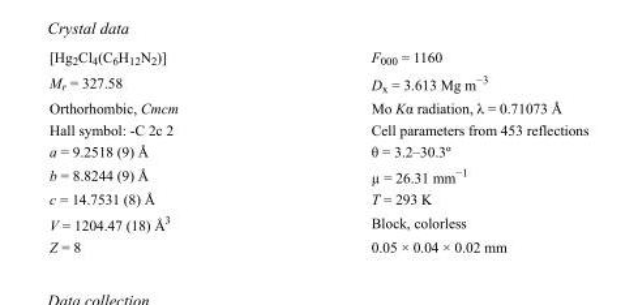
<table><tbody><tr><td>[Hg<sub>2</sub>Cl<sub>4</sub>(C<sub>6</sub>H<sub>12</sub>N<sub>2</sub>)]</td><td>F000 = 1160</td></tr><tr><td>M<sub>r</sub> = 327.58</td><td>D<sub>x</sub> = 3.613 Mg m<sup>−3</sup></td></tr><tr><td>Orthorhombic, Cmcm</td><td>Mo Kα radiation, λ = 0.71073 Å</td></tr><tr><td>Hall symbol: -C 2c 2</td><td>Cell parameters from 453 reflections</td></tr><tr><td>a = 9.2518 (9) Å</td><td>θ = 3.2–30.3º</td></tr><tr><td>b = 8.8244 (9) Å</td><td>µ = 26.31 mm<sup>−1</sup></td></tr><tr><td>c = 14.7531 (8) Å</td><td>T = 293 K</td></tr><tr><td>V = 1204.47 (18) Å<sup>3</sup></td><td>Block, colorless</td></tr><tr><td>Z = 8</td><td>0.05 × 0.04 × 0.02 mm</td></tr></tbody></table>